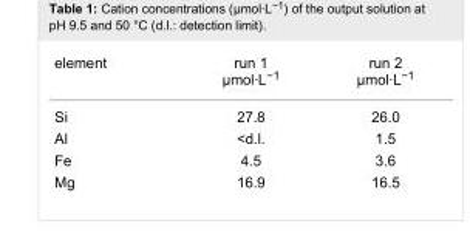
<table><tbody><tr><td>element</td><td>run 1 µmol·L<sup>−1</sup></td><td>run 2 µmol·L<sup>−1</sup></td></tr><tr><td>Si</td><td>27.8</td><td>26.0</td></tr><tr><td>Al</td><td>&lt;d.l.</td><td>1.5</td></tr><tr><td>Fe</td><td>4.5</td><td>3.6</td></tr><tr><td>Mg</td><td>16.9</td><td>16.5</td></tr></tbody></table>